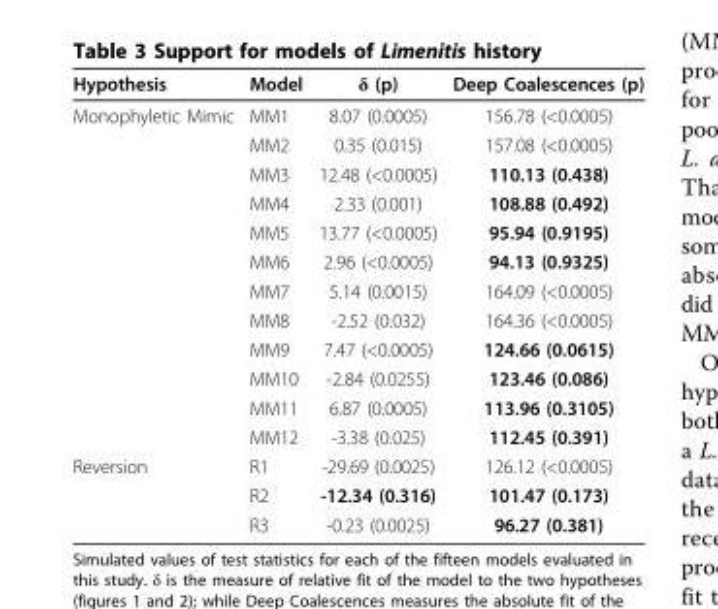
<table><thead><tr><td>Hypothesis</td><td>Model</td><td>δ (p)</td><td>Deep Coalescences (p)</td></tr></thead><tbody><tr><td rowspan="12">Monophyletic Mimic</td><td>MM1</td><td>8.07 (0.0005)</td><td>156.78 (&lt;0.0005)</td></tr><tr><td>MM2</td><td>0.35 (0.015)</td><td>157.08 (&lt;0.0005)</td></tr><tr><td>MM3</td><td>12.48 (&lt;0.0005)</td><td>110.13 (0.438)</td></tr><tr><td>MM4</td><td>2.33 (0.001)</td><td>108.88 (0.492)</td></tr><tr><td>MM5</td><td>13.77 (&lt;0.0005)</td><td>95.94 (0.9195)</td></tr><tr><td>MM6</td><td>2.96 (&lt;0.0005)</td><td>94.13 (0.9325)</td></tr><tr><td>MM7</td><td>5.14 (0.0015)</td><td>164.09 (&lt;0.0005)</td></tr><tr><td>MM8</td><td>-2.52 (0.032)</td><td>164.36 (&lt;0.0005)</td></tr><tr><td>MM9</td><td>7.47 (&lt;0.0005)</td><td>124.66 (0.0615)</td></tr><tr><td>MM10</td><td>-2.84 (0.0255)</td><td>123.46 (0.086)</td></tr><tr><td>MM11</td><td>6.87 (0.0005)</td><td>113.96 (0.3105)</td></tr><tr><td>MM12</td><td>-3.38 (0.025)</td><td>112.45 (0.391)</td></tr><tr><td rowspan="3">Reversion</td><td>R1</td><td>-29.69 (0.0025)</td><td>126.12 (&lt;0.0005)</td></tr><tr><td>R2</td><td>-12.34 (0.316)</td><td>101.47 (0.173)</td></tr><tr><td>R3</td><td>-0.23 (0.0025)</td><td>96.27 (0.381)</td></tr></tbody></table>